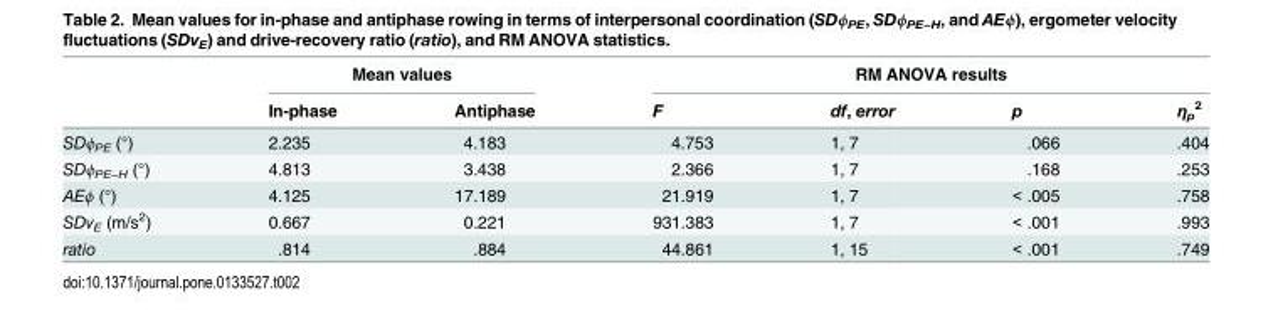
<table><thead><tr><td rowspan="2"></td><td colspan="2">Mean values</td><td colspan="4">RM ANOVA results</td></tr><tr><td>In-phase</td><td>Antiphase</td><td>F</td><td>df, error</td><td>p</td><td>η<sub>p</sub> <sup>2</sup></td></tr></thead><tbody><tr><td>SDϕ<sub>PE</sub> (°)</td><td>2.235</td><td>4.183</td><td>4.753</td><td>1, 7</td><td>.066</td><td>.404</td></tr><tr><td>SDϕ<sub>PE−H</sub> (°)</td><td>4.813</td><td>3.438</td><td>2.366</td><td>1, 7</td><td>.168</td><td>.253</td></tr><tr><td>AEϕ (°)</td><td>4.125</td><td>17.189</td><td>21.919</td><td>1, 7</td><td>&lt; .005</td><td>.758</td></tr><tr><td>SDv<sub>E</sub> (m/s<sup>2</sup>)</td><td>0.667</td><td>0.221</td><td>931.383</td><td>1, 7</td><td>&lt; .001</td><td>.993</td></tr><tr><td>ratio</td><td>.814</td><td>.884</td><td>44.861</td><td>1, 15</td><td>&lt; .001</td><td>.749</td></tr></tbody></table>